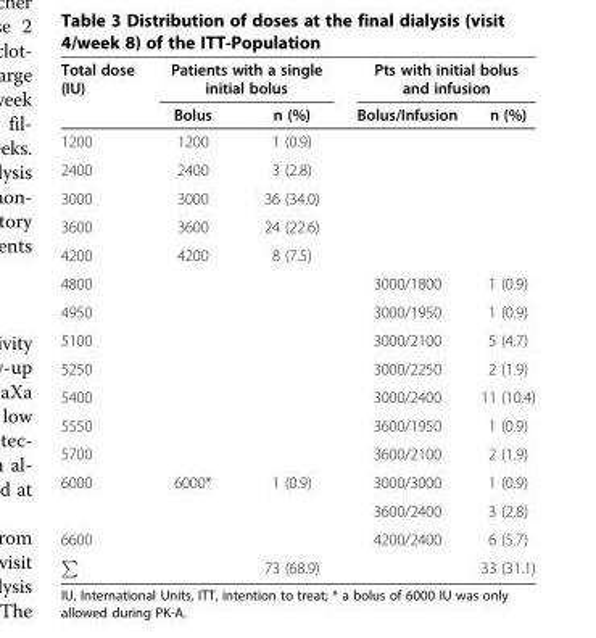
<table><thead><tr><td rowspan="2">Total dose (IU)</td><td colspan="2">Patients with a single initial bolus</td><td colspan="2">Pts with initial bolus and infusion</td></tr><tr><td>Bolus</td><td>n (%)</td><td>Bolus/Infusion</td><td>n (%)</td></tr></thead><tbody><tr><td>1200</td><td>1200</td><td>1 (0.9)</td><td></td><td></td></tr><tr><td>2400</td><td>2400</td><td>3 (2.8)</td><td></td><td></td></tr><tr><td>3000</td><td>3000</td><td>36 (34.0)</td><td></td><td></td></tr><tr><td>3600</td><td>3600</td><td>24 (22.6)</td><td></td><td></td></tr><tr><td>4200</td><td>4200</td><td>8 (7.5)</td><td></td><td></td></tr><tr><td>4800</td><td></td><td></td><td>3000/1800</td><td>1 (0.9)</td></tr><tr><td>4950</td><td></td><td></td><td>3000/1950</td><td>1 (0.9)</td></tr><tr><td>5100</td><td></td><td></td><td>3000/2100</td><td>5 (4.7)</td></tr><tr><td>5250</td><td></td><td></td><td>3000/2250</td><td>2 (1.9)</td></tr><tr><td>5400</td><td></td><td></td><td>3000/2400</td><td>11 (10.4)</td></tr><tr><td>5550</td><td></td><td></td><td>3600/1950</td><td>1 (0.9)</td></tr><tr><td>5700</td><td></td><td></td><td>3600/2100</td><td>2 (1.9)</td></tr><tr><td rowspan="2">6000</td><td rowspan="2">6000*</td><td rowspan="2">1 (0.9)</td><td>3000/3000</td><td>1 (0.9)</td></tr><tr><td>3600/2400</td><td>3 (2.8)</td></tr><tr><td>6600</td><td></td><td></td><td>4200/2400</td><td>6 (5.7)</td></tr><tr><td></td><td></td><td>73 (68.9)</td><td></td><td>33 (31.1)</td></tr></tbody></table>